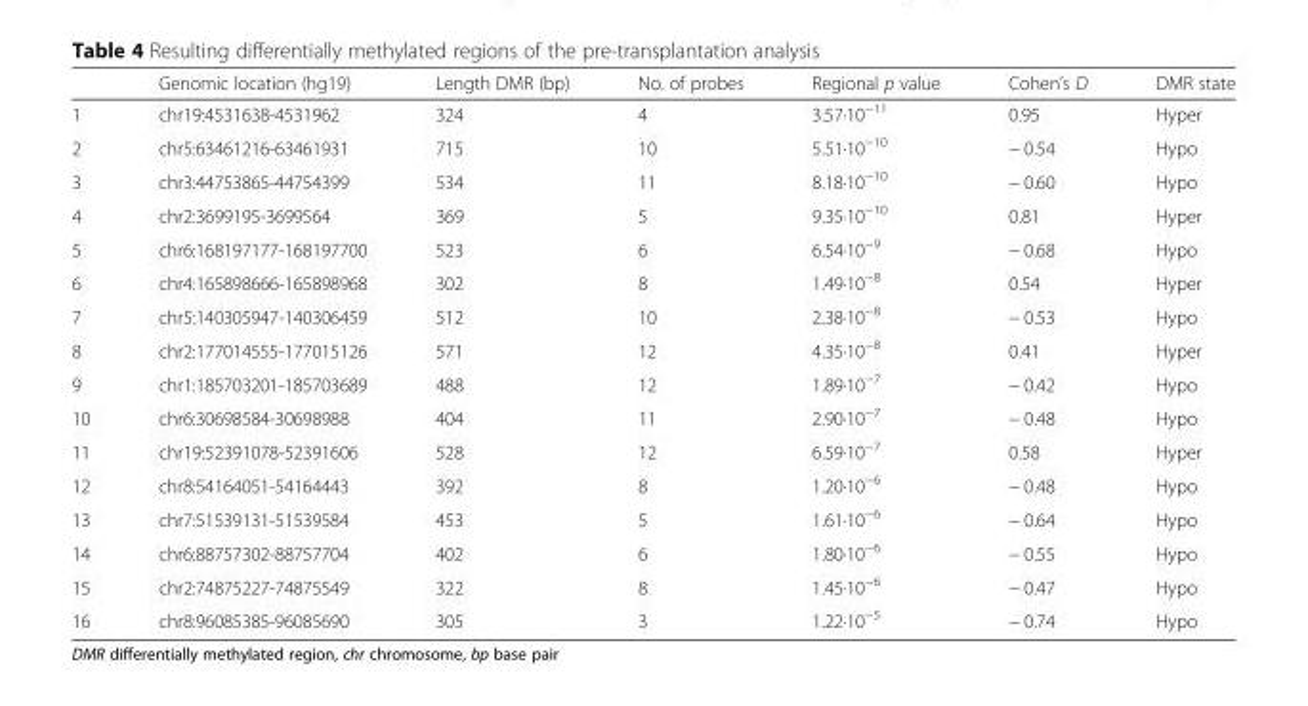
<table><thead><tr><td></td><td>Genomic location (hg19)</td><td>Length DMR (bp)</td><td>No. of probes</td><td>Regional p value</td><td>Cohen’s D</td><td>DMR state</td></tr></thead><tbody><tr><td>1</td><td>chr19:4531638-4531962</td><td>324</td><td>4</td><td>3.57·10<sup>−11</sup></td><td>0.95</td><td>Hyper</td></tr><tr><td>2</td><td>chr5:63461216-63461931</td><td>715</td><td>10</td><td>5.51·10<sup>−10</sup></td><td>− 0.54</td><td>Hypo</td></tr><tr><td>3</td><td>chr3:44753865-44754399</td><td>534</td><td>11</td><td>8.18·10<sup>−10</sup></td><td>− 0.60</td><td>Hypo</td></tr><tr><td>4</td><td>chr2:3699195-3699564</td><td>369</td><td>5</td><td>9.35·10<sup>−10</sup></td><td>0.81</td><td>Hyper</td></tr><tr><td>5</td><td>chr6:168197177-168197700</td><td>523</td><td>6</td><td>6.54·10<sup>−9</sup></td><td>− 0.68</td><td>Hypo</td></tr><tr><td>6</td><td>chr4:165898666-165898968</td><td>302</td><td>8</td><td>1.49·10<sup>−8</sup></td><td>0.54</td><td>Hyper</td></tr><tr><td>7</td><td>chr5:140305947-140306459</td><td>512</td><td>10</td><td>2.38·10<sup>−8</sup></td><td>− 0.53</td><td>Hypo</td></tr><tr><td>8</td><td>chr2:177014555-177015126</td><td>571</td><td>12</td><td>4.35·10<sup>−8</sup></td><td>0.41</td><td>Hyper</td></tr><tr><td>9</td><td>chr1:185703201-185703689</td><td>488</td><td>12</td><td>1.89·10<sup>−7</sup></td><td>− 0.42</td><td>Hypo</td></tr><tr><td>10</td><td>chr6:30698584-30698988</td><td>404</td><td>11</td><td>2.90·10<sup>−7</sup></td><td>− 0.48</td><td>Hypo</td></tr><tr><td>11</td><td>chr19:52391078-52391606</td><td>528</td><td>12</td><td>6.59·10<sup>−7</sup></td><td>0.58</td><td>Hyper</td></tr><tr><td>12</td><td>chr8:54164051-54164443</td><td>392</td><td>8</td><td>1.20·10<sup>−6</sup></td><td>− 0.48</td><td>Hypo</td></tr><tr><td>13</td><td>chr7:51539131-51539584</td><td>453</td><td>5</td><td>1.61·10<sup>−6</sup></td><td>− 0.64</td><td>Hypo</td></tr><tr><td>14</td><td>chr6:88757302-88757704</td><td>402</td><td>6</td><td>1.80·10<sup>−6</sup></td><td>− 0.55</td><td>Hypo</td></tr><tr><td>15</td><td>chr2:74875227-74875549</td><td>322</td><td>8</td><td>1.45·10<sup>−6</sup></td><td>− 0.47</td><td>Hypo</td></tr><tr><td>16</td><td>chr8:96085385-96085690</td><td>305</td><td>3</td><td>1.22·10<sup>−5</sup></td><td>− 0.74</td><td>Hypo</td></tr></tbody></table>